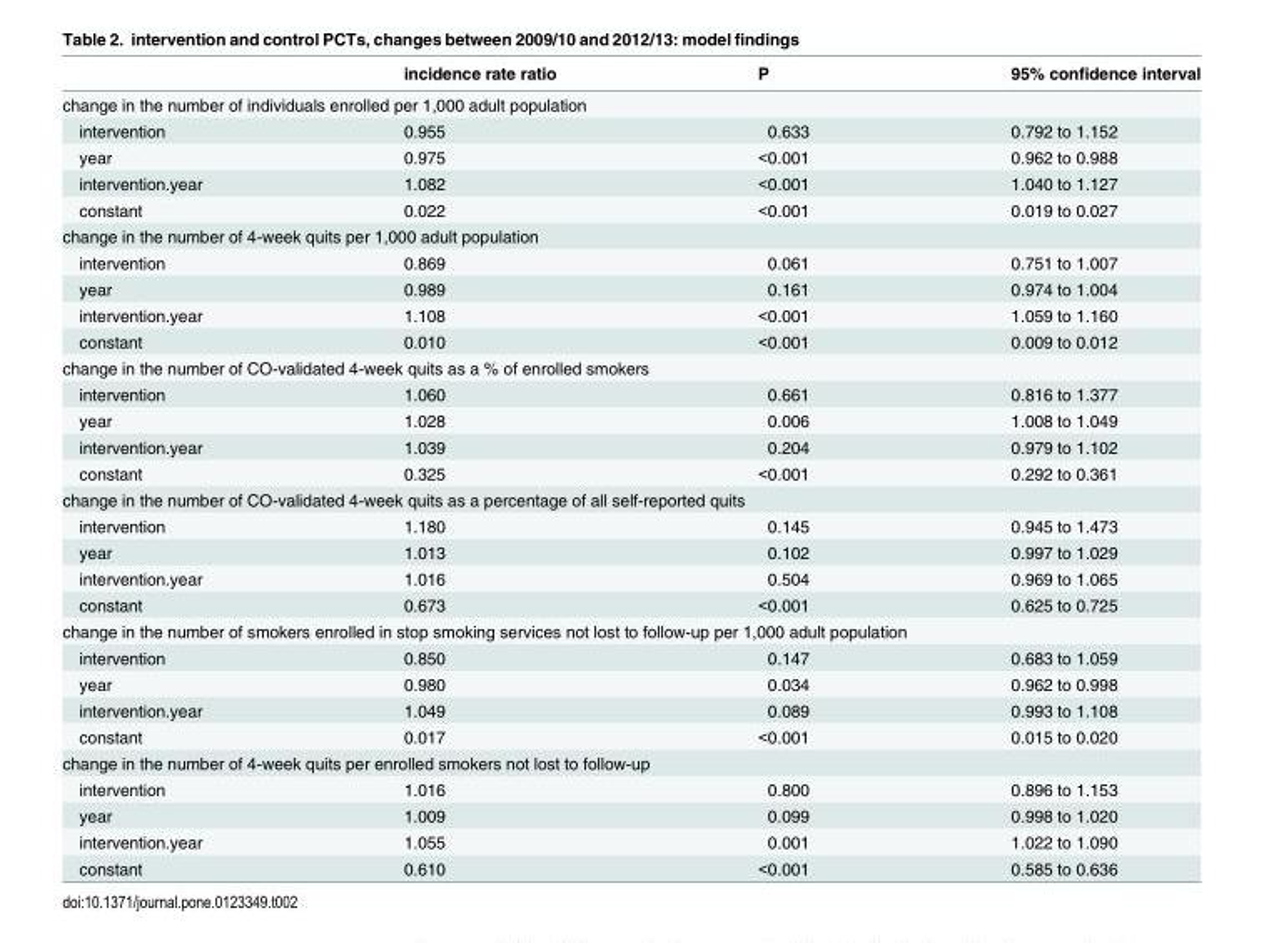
<table><thead><tr><td></td><td>incidence rate ratio</td><td>P</td><td>95% confidence interval</td></tr></thead><tbody><tr><td colspan="4">change in the number of individuals enrolled per 1,000 adult population</td></tr><tr><td>intervention</td><td>0.955</td><td>0.633</td><td>0.792 to 1.152</td></tr><tr><td>year</td><td>0.975</td><td>&lt;0.001</td><td>0.962 to 0.988</td></tr><tr><td>intervention.year</td><td>1.082</td><td>&lt;0.001</td><td>1.040 to 1.127</td></tr><tr><td>constant</td><td>0.022</td><td>&lt;0.001</td><td>0.019 to 0.027</td></tr><tr><td colspan="4">change in the number of 4-week quits per 1,000 adult population</td></tr><tr><td>intervention</td><td>0.869</td><td>0.061</td><td>0.751 to 1.007</td></tr><tr><td>year</td><td>0.989</td><td>0.161</td><td>0.974 to 1.004</td></tr><tr><td>intervention.year</td><td>1.108</td><td>&lt;0.001</td><td>1.059 to 1.160</td></tr><tr><td>constant</td><td>0.010</td><td>&lt;0.001</td><td>0.009 to 0.012</td></tr><tr><td colspan="4">change in the number of CO-validated 4-week quits as a % of enrolled smokers</td></tr><tr><td>intervention</td><td>1.060</td><td>0.661</td><td>0.816 to 1.377</td></tr><tr><td>year</td><td>1.028</td><td>0.006</td><td>1.008 to 1.049</td></tr><tr><td>intervention.year</td><td>1.039</td><td>0.204</td><td>0.979 to 1.102</td></tr><tr><td>constant</td><td>0.325</td><td>&lt;0.001</td><td>0.292 to 0.361</td></tr><tr><td colspan="4">change in the number of CO-validated 4-week quits as a percentage of all self-reported quits</td></tr><tr><td>intervention</td><td>1.180</td><td>0.145</td><td>0.945 to 1.473</td></tr><tr><td>year</td><td>1.013</td><td>0.102</td><td>0.997 to 1.029</td></tr><tr><td>intervention.year</td><td>1.016</td><td>0.504</td><td>0.969 to 1.065</td></tr><tr><td>constant</td><td>0.673</td><td>&lt;0.001</td><td>0.625 to 0.725</td></tr><tr><td colspan="4">change in the number of smokers enrolled in stop smoking services not lost to follow-up per 1,000 adult population</td></tr><tr><td>intervention</td><td>0.850</td><td>0.147</td><td>0.683 to 1.059</td></tr><tr><td>year</td><td>0.980</td><td>0.034</td><td>0.962 to 0.998</td></tr><tr><td>intervention.year</td><td>1.049</td><td>0.089</td><td>0.993 to 1.108</td></tr><tr><td>constant</td><td>0.017</td><td>&lt;0.001</td><td>0.015 to 0.020</td></tr><tr><td colspan="4">change in the number of 4-week quits per enrolled smokers not lost to follow-up</td></tr><tr><td>intervention</td><td>1.016</td><td>0.800</td><td>0.896 to 1.153</td></tr><tr><td>year</td><td>1.009</td><td>0.099</td><td>0.998 to 1.020</td></tr><tr><td>intervention.year</td><td>1.055</td><td>0.001</td><td>1.022 to 1.090</td></tr><tr><td>constant</td><td>0.610</td><td>&lt;0.001</td><td>0.585 to 0.636</td></tr></tbody></table>